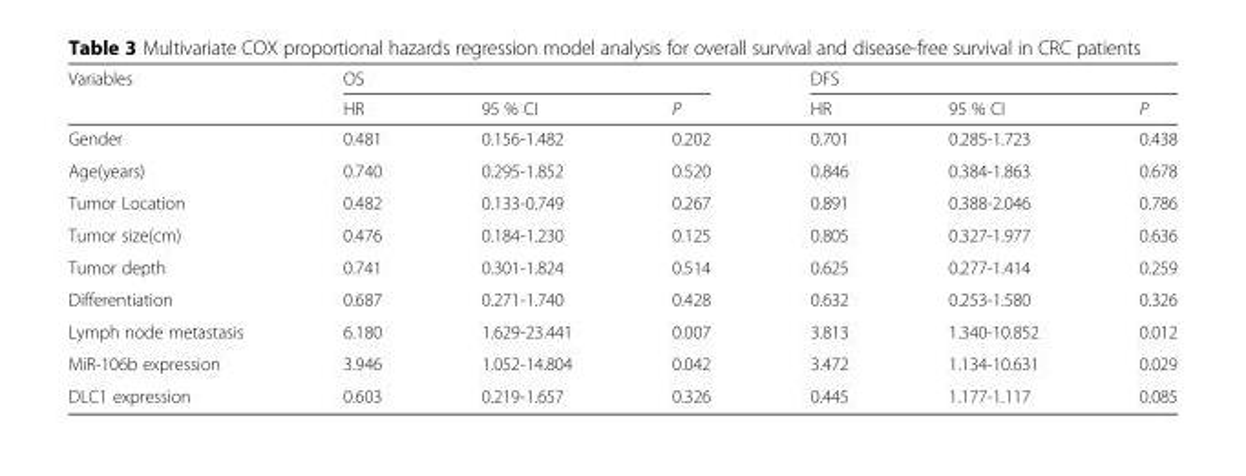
<table><thead><tr><td rowspan="2">Variables</td><td colspan="3">OS</td><td colspan="3">DFS</td></tr><tr><td>HR</td><td>95 % CI</td><td>P</td><td>HR</td><td>95 % CI</td><td>P</td></tr></thead><tbody><tr><td>Gender</td><td>0.481</td><td>0.156-1.482</td><td>0.202</td><td>0.701</td><td>0.285-1.723</td><td>0.438</td></tr><tr><td>Age(years)</td><td>0.740</td><td>0.295-1.852</td><td>0.520</td><td>0.846</td><td>0.384-1.863</td><td>0.678</td></tr><tr><td>Tumor Location</td><td>0.482</td><td>0.133-0.749</td><td>0.267</td><td>0.891</td><td>0.388-2.046</td><td>0.786</td></tr><tr><td>Tumor size(cm)</td><td>0.476</td><td>0.184-1.230</td><td>0.125</td><td>0.805</td><td>0.327-1.977</td><td>0.636</td></tr><tr><td>Tumor depth</td><td>0.741</td><td>0.301-1.824</td><td>0.514</td><td>0.625</td><td>0.277-1.414</td><td>0.259</td></tr><tr><td>Differentiation</td><td>0.687</td><td>0.271-1.740</td><td>0.428</td><td>0.632</td><td>0.253-1.580</td><td>0.326</td></tr><tr><td>Lymph node metastasis</td><td>6.180</td><td>1.629-23.441</td><td>0.007</td><td>3.813</td><td>1.340-10.852</td><td>0.012</td></tr><tr><td>MiR-106b expression</td><td>3.946</td><td>1.052-14.804</td><td>0.042</td><td>3.472</td><td>1.134-10.631</td><td>0.029</td></tr><tr><td>DLC1 expression</td><td>0.603</td><td>0.219-1.657</td><td>0.326</td><td>0.445</td><td>1.177-1.117</td><td>0.085</td></tr></tbody></table>